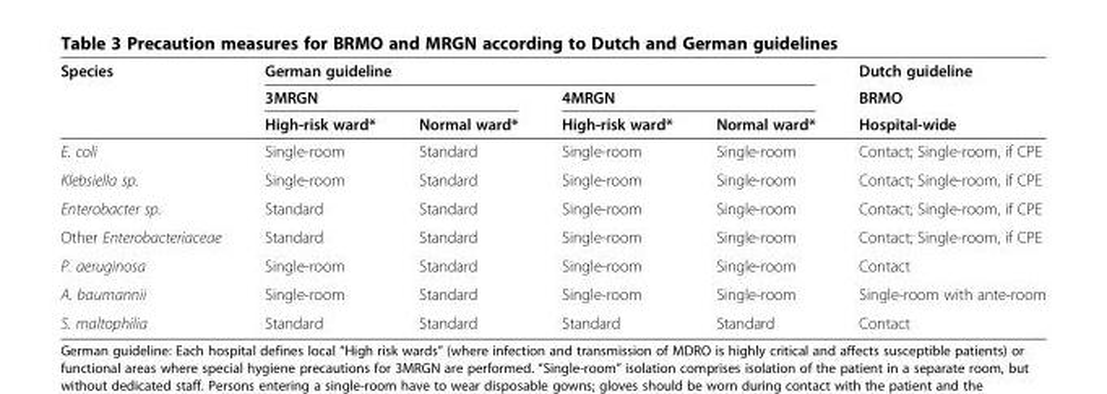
<table><thead><tr><td rowspan="3">Species</td><td colspan="4">German guideline</td><td rowspan="3">Dutch guideline BRMO Hospital-wide</td></tr><tr><td colspan="2">3MRGN</td><td colspan="2">4MRGN</td></tr><tr><td>High-risk ward*</td><td>Normal ward*</td><td>High-risk ward*</td><td>Normal ward*</td></tr></thead><tbody><tr><td>E. coli</td><td>Single-room</td><td>Standard</td><td>Single-room</td><td>Single-room</td><td>Contact; Single-room, if CPE</td></tr><tr><td>Klebsiella sp.</td><td>Single-room</td><td>Standard</td><td>Single-room</td><td>Single-room</td><td>Contact; Single-room, if CPE</td></tr><tr><td>Enterobacter sp.</td><td>Standard</td><td>Standard</td><td>Single-room</td><td>Single-room</td><td>Contact; Single-room, if CPE</td></tr><tr><td>Other Enterobacteriaceae</td><td>Standard</td><td>Standard</td><td>Single-room</td><td>Single-room</td><td>Contact; Single-room, if CPE</td></tr><tr><td>P. aeruginosa</td><td>Single-room</td><td>Standard</td><td>Single-room</td><td>Single-room</td><td>Contact</td></tr><tr><td>A. baumannii</td><td>Single-room</td><td>Standard</td><td>Single-room</td><td>Single-room</td><td>Single-room with ante-room</td></tr><tr><td>S. maltophilia</td><td>Standard</td><td>Standard</td><td>Standard</td><td>Standard</td><td>Contact</td></tr></tbody></table>